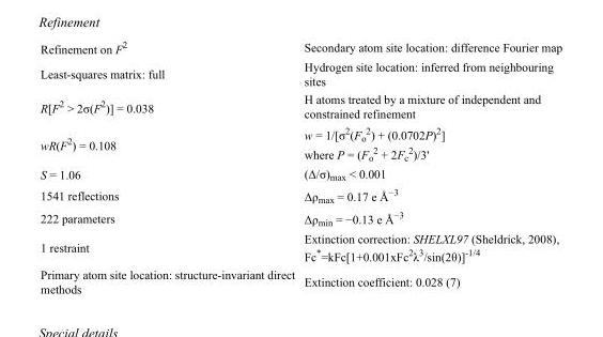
<table><tbody><tr><td>Refinement on F<sup>2</sup></td><td>Secondary atom site location: difference Fourier map</td></tr><tr><td>Least-squares matrix: full</td><td>Hydrogen site location: inferred from neighbouring sites</td></tr><tr><td>R[F<sup>2</sup> &gt; 2σ(F<sup>2</sup>)] = 0.038</td><td>H atoms treated by a mixture of independent and constrained refinement</td></tr><tr><td>wR(F<sup>2</sup>) = 0.108</td><td>w = 1/[σ<sup>2</sup>(F<sub>o</sub> <sup>2</sup>) + (0.0702P)<sup>2</sup>] where P = (F<sub>o</sub> <sup>2</sup> + 2F<sub>c</sub> <sup>2</sup>)/3&#x27;</td></tr><tr><td>S = 1.06</td><td>(Δ/σ)<sub>max</sub> &lt; 0.001</td></tr><tr><td>1541 reflections</td><td>Δρ<sub>max</sub> = 0.17 e Å<sup>−3</sup></td></tr><tr><td>222 parameters</td><td>Δρ<sub>min</sub> = −0.13 e Å<sup>−3</sup></td></tr><tr><td>1 restraint</td><td>Extinction correction: SHELXL97 (Sheldrick, 2008), Fc*=kFc[1+0.001xFc<sup>2</sup>λ<sup>3</sup>/sin(2θ)]<sup>-1/4</sup></td></tr><tr><td>Primary atom site location: structure-invariant direct methods</td><td>Extinction coefficient: 0.028 (7)</td></tr></tbody></table>